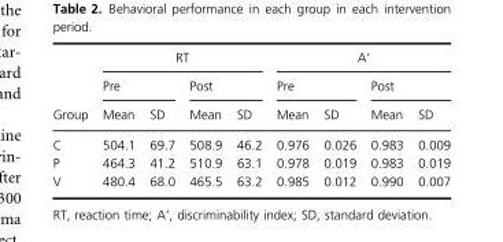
<table><thead><tr><td rowspan="3">Group</td><td colspan="4">RT</td><td colspan="4">A’</td></tr><tr><td colspan="2">Pre</td><td colspan="2">Post</td><td colspan="2">Pre</td><td colspan="2">Post</td></tr><tr><td>Mean</td><td>SD</td><td>Mean</td><td>SD</td><td>Mean</td><td>SD</td><td>Mean</td><td>SD</td></tr></thead><tbody><tr><td>C</td><td>504.1</td><td>69.7</td><td>508.9</td><td>46.2</td><td>0.976</td><td>0.026</td><td>0.983</td><td>0.009</td></tr><tr><td>P</td><td>464.3</td><td>41.2</td><td>510.9</td><td>63.1</td><td>0.978</td><td>0.019</td><td>0.983</td><td>0.019</td></tr><tr><td>V</td><td>480.4</td><td>68.0</td><td>465.5</td><td>63.2</td><td>0.985</td><td>0.012</td><td>0.990</td><td>0.007</td></tr></tbody></table>